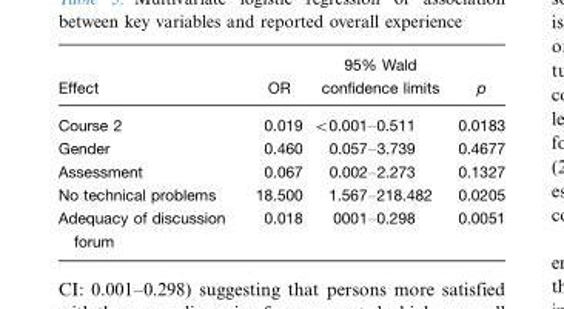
<table><thead><tr><td>Effect</td><td>OR</td><td>95% Wald confidence limits</td><td>p</td></tr></thead><tbody><tr><td>Course 2</td><td>0.019</td><td>&lt;0.001–0.511</td><td>0.0183</td></tr><tr><td>Gender</td><td>0.460</td><td>0.057–3.739</td><td>0.4677</td></tr><tr><td>Assessment</td><td>0.067</td><td>0.002–2.273</td><td>0.1327</td></tr><tr><td>No technical problems</td><td>18.500</td><td>1.567–218.482</td><td>0.0205</td></tr><tr><td>Adequacy of discussion forum</td><td>0.018</td><td>0001–0.298</td><td>0.0051</td></tr></tbody></table>